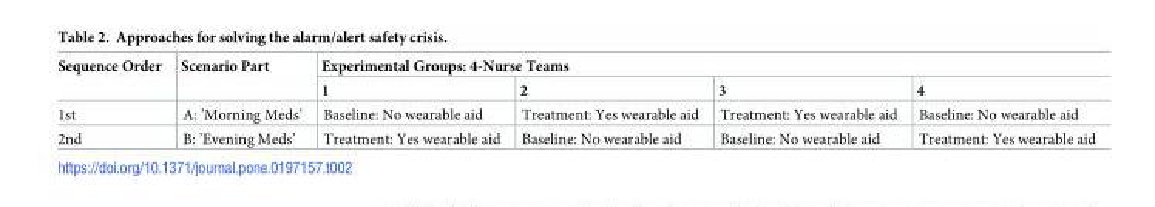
<table><thead><tr><td rowspan="2">Sequence Order</td><td rowspan="2">Scenario Part</td><td colspan="4">Experimental Groups: 4-Nurse Teams</td></tr><tr><td>1</td><td>2</td><td>3</td><td>4</td></tr></thead><tbody><tr><td>1st</td><td>A: ’Morning Meds’</td><td>Baseline: No wearable aid</td><td>Treatment: Yes wearable aid</td><td>Treatment: Yes wearable aid</td><td>Baseline: No wearable aid</td></tr><tr><td>2nd</td><td>B: ’Evening Meds’</td><td>Treatment: Yes wearable aid</td><td>Baseline: No wearable aid</td><td>Baseline: No wearable aid</td><td>Treatment: Yes wearable aid</td></tr></tbody></table>